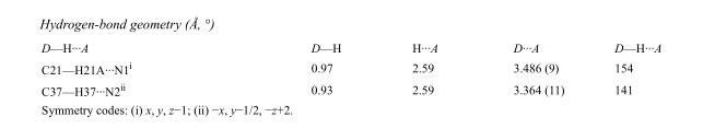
<table><tbody><tr><td>D—H···A</td><td>D—H</td><td>H···A</td><td>D···A</td><td>D—H···A</td></tr><tr><td>C21—H21A···N1<sup>i</sup></td><td>0.97</td><td>2.59</td><td>3.486 (9)</td><td>154</td></tr><tr><td>C37—H37···N2<sup>ii</sup></td><td>0.93</td><td>2.59</td><td>3.364 (11)</td><td>141</td></tr></tbody></table>